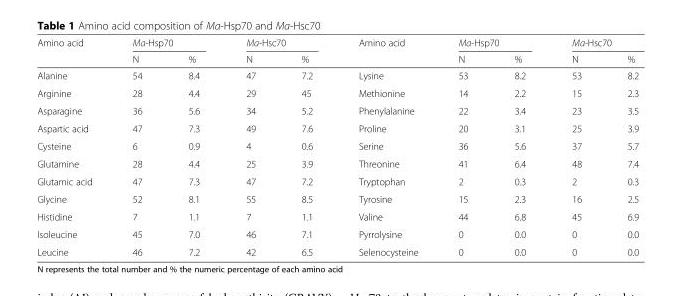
<table><thead><tr><td rowspan="2">Amino acid</td><td colspan="2">Ma-Hsp70</td><td colspan="2">Ma-Hsc70</td><td rowspan="2">Amino acid</td><td colspan="2">Ma-Hsp70</td><td colspan="2">Ma-Hsc70</td></tr><tr><td>N</td><td>%</td><td>N</td><td>%</td><td>N</td><td>%</td><td>N</td><td>%</td></tr></thead><tbody><tr><td>Alanine</td><td>54</td><td>8.4</td><td>47</td><td>7.2</td><td>Lysine</td><td>53</td><td>8.2</td><td>53</td><td>8.2</td></tr><tr><td>Arginine</td><td>28</td><td>4.4</td><td>29</td><td>45</td><td>Methionine</td><td>14</td><td>2.2</td><td>15</td><td>2.3</td></tr><tr><td>Asparagine</td><td>36</td><td>5.6</td><td>34</td><td>5.2</td><td>Phenylalanine</td><td>22</td><td>3.4</td><td>23</td><td>3.5</td></tr><tr><td>Aspartic acid</td><td>47</td><td>7.3</td><td>49</td><td>7.6</td><td>Proline</td><td>20</td><td>3.1</td><td>25</td><td>3.9</td></tr><tr><td>Cysteine</td><td>6</td><td>0.9</td><td>4</td><td>0.6</td><td>Serine</td><td>36</td><td>5.6</td><td>37</td><td>5.7</td></tr><tr><td>Glutamine</td><td>28</td><td>4.4</td><td>25</td><td>3.9</td><td>Threonine</td><td>41</td><td>6.4</td><td>48</td><td>7.4</td></tr><tr><td>Glutamic acid</td><td>47</td><td>7.3</td><td>47</td><td>7.2</td><td>Tryptophan</td><td>2</td><td>0.3</td><td>2</td><td>0.3</td></tr><tr><td>Glycine</td><td>52</td><td>8.1</td><td>55</td><td>8.5</td><td>Tyrosine</td><td>15</td><td>2.3</td><td>16</td><td>2.5</td></tr><tr><td>Histidine</td><td>7</td><td>1.1</td><td>7</td><td>1.1</td><td>Valine</td><td>44</td><td>6.8</td><td>45</td><td>6.9</td></tr><tr><td>Isoleucine</td><td>45</td><td>7.0</td><td>46</td><td>7.1</td><td>Pyrrolysine</td><td>0</td><td>0.0</td><td>0</td><td>0.0</td></tr><tr><td>Leucine</td><td>46</td><td>7.2</td><td>42</td><td>6.5</td><td>Selenocysteine</td><td>0</td><td>0.0</td><td>0</td><td>0.0</td></tr></tbody></table>